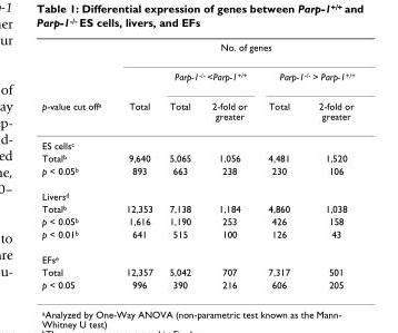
<table><thead><tr><td rowspan="3">p-value cut off<sup>a</sup></td><td colspan="5">No. of genes</td></tr><tr><td rowspan="2">Total</td><td colspan="2">Parp-1<sup>-/-</sup> &lt;Parp-1<sup>+/+</sup></td><td colspan="2">Parp-1<sup>-/-</sup> &gt; Parp-1<sup>+/+</sup></td></tr><tr><td>Total</td><td>2-fold or greater</td><td>Total</td><td>2-fold or greater</td></tr></thead><tbody><tr><td colspan="6">ES cells<sup>c</sup></td></tr><tr><td>Total<sup>b</sup></td><td>9,640</td><td>5,065</td><td>1,056</td><td>4,481</td><td>1,520</td></tr><tr><td>p &lt; 0.05<sup>b</sup></td><td>893</td><td>663</td><td>238</td><td>230</td><td>106</td></tr><tr><td colspan="6">Livers<sup>d</sup></td></tr><tr><td>Total<sup>b</sup></td><td>12,353</td><td>7,138</td><td>1,184</td><td>4,860</td><td>1,038</td></tr><tr><td>p &lt; 0.05<sup>b</sup></td><td>1,616</td><td>1,190</td><td>253</td><td>426</td><td>158</td></tr><tr><td>p &lt; 0.01<sup>b</sup></td><td>641</td><td>515</td><td>100</td><td>126</td><td>43</td></tr><tr><td colspan="6">EFs<sup>e</sup></td></tr><tr><td>Total</td><td>12,357</td><td>5,042</td><td>707</td><td>7,317</td><td>501</td></tr><tr><td>p &lt; 0.05</td><td>996</td><td>390</td><td>216</td><td>606</td><td>205</td></tr></tbody></table>